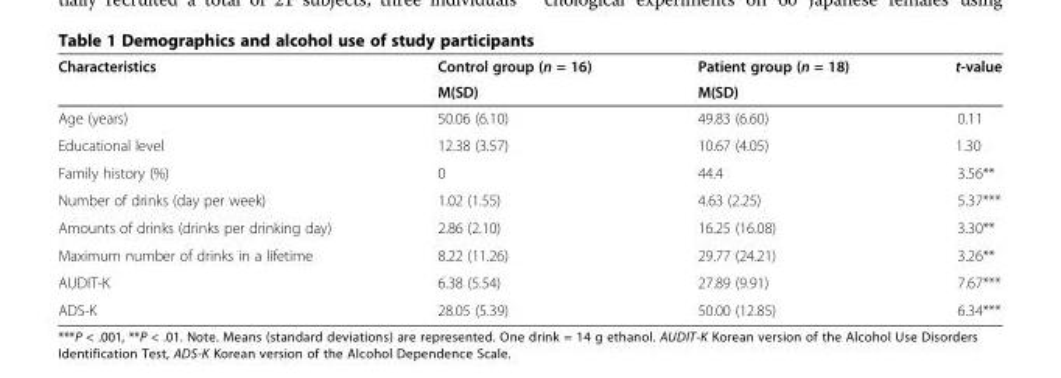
<table><thead><tr><td rowspan="2">Characteristics</td><td rowspan="2">Control group (n = 16) M(SD)</td><td rowspan="2">Patient group (n = 18) M(SD)</td><td rowspan="2">t-value</td></tr><tr></tr></thead><tbody><tr><td>Age (years)</td><td>50.06 (6.10)</td><td>49.83 (6.60)</td><td>0.11</td></tr><tr><td>Educational level</td><td>12.38 (3.57)</td><td>10.67 (4.05)</td><td>1.30</td></tr><tr><td>Family history (%)</td><td>0</td><td>44.4</td><td>3.56**</td></tr><tr><td>Number of drinks (day per week)</td><td>1.02 (1.55)</td><td>4.63 (2.25)</td><td>5.37***</td></tr><tr><td>Amounts of drinks (drinks per drinking day)</td><td>2.86 (2.10)</td><td>16.25 (16.08)</td><td>3.30**</td></tr><tr><td>Maximum number of drinks in a lifetime</td><td>8.22 (11.26)</td><td>29.77 (24.21)</td><td>3.26**</td></tr><tr><td>AUDIT-K</td><td>6.38 (5.54)</td><td>27.89 (9.91)</td><td>7.67***</td></tr><tr><td>ADS-K</td><td>28.05 (5.39)</td><td>50.00 (12.85)</td><td>6.34***</td></tr></tbody></table>